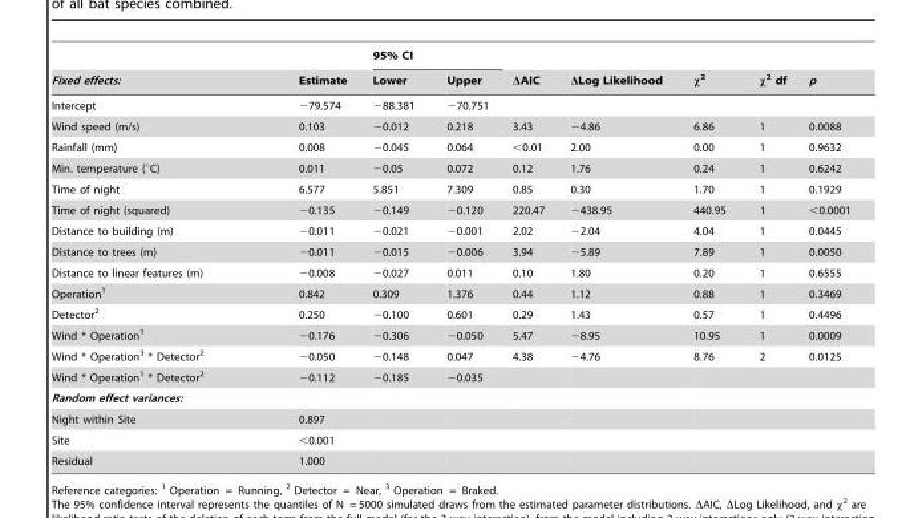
<table><thead><tr><td rowspan="2">Fixed effects:</td><td rowspan="2">Estimate</td><td colspan="2">95% CI</td><td rowspan="2">ΔAIC</td><td rowspan="2">ΔLog Likelihood</td><td rowspan="2">χ<sup>2</sup></td><td rowspan="2">χ<sup>2</sup> df</td><td rowspan="2">p</td></tr><tr><td>Lower</td><td>Upper</td></tr></thead><tbody><tr><td>Intercept</td><td>−79.574</td><td>−88.381</td><td>−70.751</td><td></td><td></td><td></td><td></td><td></td></tr><tr><td>Wind speed (m/s)</td><td>0.103</td><td>−0.012</td><td>0.218</td><td>3.43</td><td>−4.86</td><td>6.86</td><td>1</td><td>0.0088</td></tr><tr><td>Rainfall (mm)</td><td>0.008</td><td>−0.045</td><td>0.064</td><td>&lt;0.01</td><td>2.00</td><td>0.00</td><td>1</td><td>0.9632</td></tr><tr><td>Min. temperature (°C)</td><td>0.011</td><td>−0.05</td><td>0.072</td><td>0.12</td><td>1.76</td><td>0.24</td><td>1</td><td>0.6242</td></tr><tr><td>Time of night</td><td>6.577</td><td>5.851</td><td>7.309</td><td>0.85</td><td>0.30</td><td>1.70</td><td>1</td><td>0.1929</td></tr><tr><td>Time of night (squared)</td><td>−0.135</td><td>−0.149</td><td>−0.120</td><td>220.47</td><td>−438.95</td><td>440.95</td><td>1</td><td>&lt;0.0001</td></tr><tr><td>Distance to building (m)</td><td>−0.011</td><td>−0.021</td><td>−0.001</td><td>2.02</td><td>−2.04</td><td>4.04</td><td>1</td><td>0.0445</td></tr><tr><td>Distance to trees (m)</td><td>−0.011</td><td>−0.015</td><td>−0.006</td><td>3.94</td><td>−5.89</td><td>7.89</td><td>1</td><td>0.0050</td></tr><tr><td>Distance to linear features (m)</td><td>−0.008</td><td>−0.027</td><td>0.011</td><td>0.10</td><td>1.80</td><td>0.20</td><td>1</td><td>0.6555</td></tr><tr><td>Operation<sup>1</sup></td><td>0.842</td><td>0.309</td><td>1.376</td><td>0.44</td><td>1.12</td><td>0.88</td><td>1</td><td>0.3469</td></tr><tr><td>Detector<sup>2</sup></td><td>0.250</td><td>−0.100</td><td>0.601</td><td>0.29</td><td>1.43</td><td>0.57</td><td>1</td><td>0.4496</td></tr><tr><td>Wind * Operation<sup>1</sup></td><td>−0.176</td><td>−0.306</td><td>−0.050</td><td>5.47</td><td>−8.95</td><td>10.95</td><td>1</td><td>0.0009</td></tr><tr><td>Wind * Operation<sup>3</sup> * Detector<sup>2</sup></td><td>−0.050</td><td>−0.148</td><td>0.047</td><td>4.38</td><td>−4.76</td><td>8.76</td><td>2</td><td>0.0125</td></tr><tr><td>Wind * Operation<sup>1</sup> * Detector<sup>2</sup></td><td>−0.112</td><td>−0.185</td><td>−0.035</td><td></td><td></td><td></td><td></td><td></td></tr><tr><td colspan="9">Random effect variances:</td></tr><tr><td>Night within Site</td><td>0.897</td><td></td><td></td><td></td><td></td><td></td><td></td><td></td></tr><tr><td>Site</td><td>&lt;0.001</td><td></td><td></td><td></td><td></td><td></td><td></td><td></td></tr><tr><td>Residual</td><td>1.000</td><td></td><td></td><td></td><td></td><td></td><td></td><td></td></tr></tbody></table>